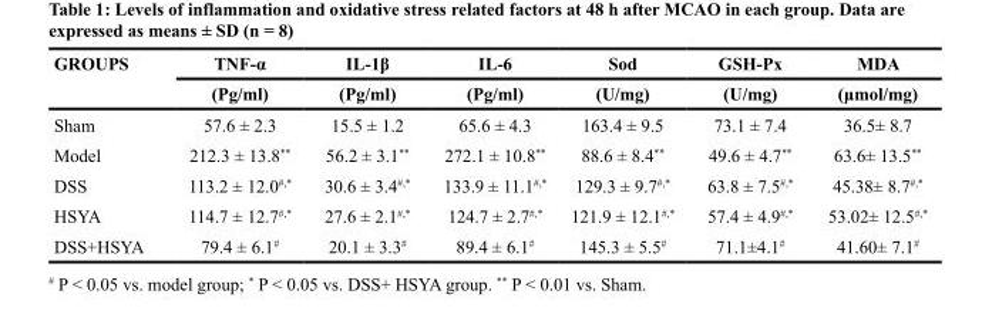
<table><thead><tr><td rowspan="2">GROUPS</td><td rowspan="2">TNF-α (Pg/ml)</td><td rowspan="2">IL-1β (Pg/ml)</td><td rowspan="2">IL-6 (Pg/ml)</td><td rowspan="2">Sod (U/mg)</td><td rowspan="2">GSH-Px (U/mg)</td><td rowspan="2">MDA (μmol/mg)</td></tr><tr></tr></thead><tbody><tr><td>Sham</td><td>57.6 ± 2.3</td><td>15.5 ± 1.2</td><td>65.6 ± 4.3</td><td>163.4 ± 9.5</td><td>73.1 ± 7.4</td><td>36.5± 8.7</td></tr><tr><td>Model</td><td>212.3 ± 13.8**</td><td>56.2 ± 3.1**</td><td>272.1 ± 10.8**</td><td>88.6 ± 8.4**</td><td>49.6 ± 4.7**</td><td>63.6± 13.5**</td></tr><tr><td>DSS</td><td>113.2 ± 12.0<sup>#,*</sup></td><td>30.6 ± 3.4<sup>#,*</sup></td><td>133.9 ± 11.1<sup>#,*</sup></td><td>129.3 ± 9.7<sup>#,*</sup></td><td>63.8 ± 7.5<sup>#,*</sup></td><td>45.38± 8.7<sup>#,*</sup></td></tr><tr><td>HSYA</td><td>114.7 ± 12.7<sup>#,*</sup></td><td>27.6 ± 2.1<sup>#,*</sup></td><td>124.7 ± 2.7<sup>#,*</sup></td><td>121.9 ± 12.1<sup>#,*</sup></td><td>57.4 ± 4.9<sup>#,*</sup></td><td>53.02± 12.5<sup>#,*</sup></td></tr><tr><td>DSS+HSYA</td><td>79.4 ± 6.1<sup>#</sup></td><td>20.1 ± 3.3<sup>#</sup></td><td>89.4 ± 6.1<sup>#</sup></td><td>145.3 ± 5.5<sup>#</sup></td><td>71.1±4.1<sup>#</sup></td><td>41.60± 7.1<sup>#</sup></td></tr></tbody></table>